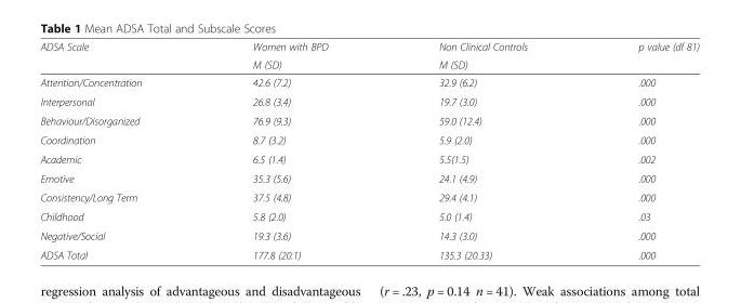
<table><thead><tr><td rowspan="2">ADSA Scale</td><td rowspan="2">Women with BPD M (SD)</td><td rowspan="2">Non Clinical Controls M (SD)</td><td rowspan="2">p value (df 81)</td></tr><tr></tr></thead><tbody><tr><td>Attention/Concentration</td><td>42.6 (7.2)</td><td>32.9 (6.2)</td><td>.000</td></tr><tr><td>Interpersonal</td><td>26.8 (3.4)</td><td>19.7 (3.0)</td><td>.000</td></tr><tr><td>Behaviour/Disorganized</td><td>76.9 (9.3)</td><td>59.0 (12.4)</td><td>.000</td></tr><tr><td>Coordination</td><td>8.7 (3.2)</td><td>5.9 (2.0)</td><td>.000</td></tr><tr><td>Academic</td><td>6.5 (1.4)</td><td>5.5(1.5)</td><td>.002</td></tr><tr><td>Emotive</td><td>35.3 (5.6)</td><td>24.1 (4.9)</td><td>.000</td></tr><tr><td>Consistency/Long Term</td><td>37.5 (4.8)</td><td>29.4 (4.1)</td><td>.000</td></tr><tr><td>Childhood</td><td>5.8 (2.0)</td><td>5.0 (1.4)</td><td>.03</td></tr><tr><td>Negative/Social</td><td>19.3 (3.6)</td><td>14.3 (3.0)</td><td>.000</td></tr><tr><td>ADSA Total</td><td>177.8 (20.1)</td><td>135.3 (20.33)</td><td>.000</td></tr></tbody></table>